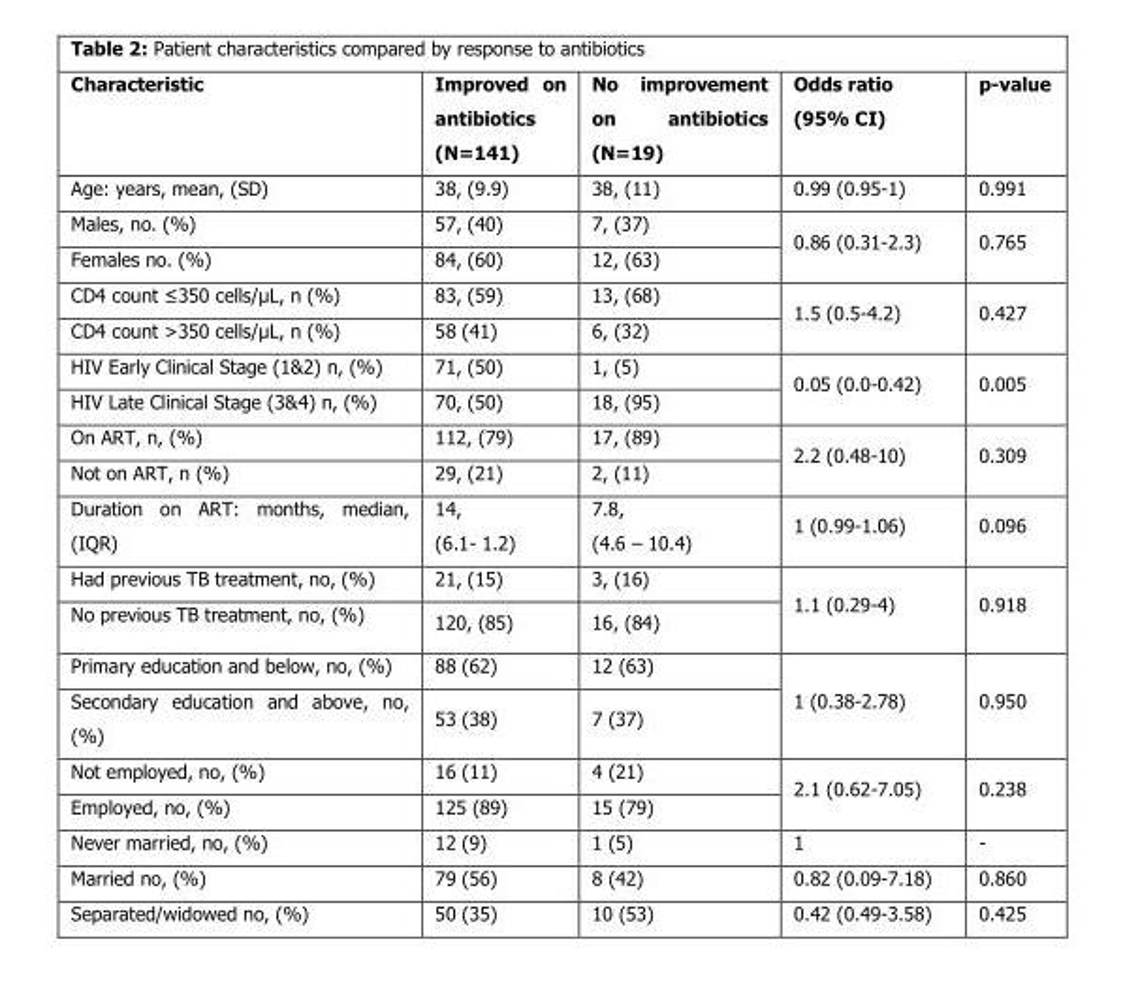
<table><thead><tr><td>Characteristic</td><td>Improved on antibiotics (N=141)</td><td>No improvement on antibiotics (N=19)</td><td>Odds ratio (95% CI)</td><td>p-value</td></tr></thead><tbody><tr><td>Age: years, mean, (SD)</td><td>38, (9.9)</td><td>38, (11)</td><td>0.99 (0.95-1)</td><td>0.991</td></tr><tr><td>Males, no. (%)</td><td>57, (40)</td><td>7, (37)</td><td rowspan="2">0.86 (0.31-2.3)</td><td rowspan="2">0.765</td></tr><tr><td>Females no. (%)</td><td>84, (60)</td><td>12, (63)</td></tr><tr><td>CD4 count ≤350 cells/µL, n (%)</td><td>83, (59)</td><td>13, (68)</td><td rowspan="2">1.5 (0.5-4.2)</td><td rowspan="2">0.427</td></tr><tr><td>CD4 count &gt;350 cells/µL, n (%)</td><td>58 (41)</td><td>6, (32)</td></tr><tr><td>HIV Early Clinical Stage (1&amp;2) n, (%)</td><td>71, (50)</td><td>1, (5)</td><td rowspan="2">0.05 (0.0-0.42)</td><td rowspan="2">0.005</td></tr><tr><td>HIV Late Clinical Stage (3&amp;4) n, (%)</td><td>70, (50)</td><td>18, (95)</td></tr><tr><td>On ART, n, (%)</td><td>112, (79)</td><td>17, (89)</td><td rowspan="2">2.2 (0.48-10)</td><td rowspan="2">0.309</td></tr><tr><td>Not on ART, n (%)</td><td>29, (21)</td><td>2, (11)</td></tr><tr><td>Duration on ART: months, median, (IQR)</td><td>14, (6.1- 1.2)</td><td>7.8, (4.6 – 10.4)</td><td>1 (0.99-1.06)</td><td>0.096</td></tr><tr><td>Had previous TB treatment, no, (%)</td><td>21, (15)</td><td>3, (16)</td><td rowspan="2">1.1 (0.29-4)</td><td rowspan="2">0.918</td></tr><tr><td>No previous TB treatment, no, (%)</td><td>120, (85)</td><td>16, (84)</td></tr><tr><td>Primary education and below, no, (%)</td><td>88 (62)</td><td>12 (63)</td><td rowspan="2">1 (0.38-2.78)</td><td rowspan="2">0.950</td></tr><tr><td>Secondary education and above, no, (%)</td><td>53 (38)</td><td>7 (37)</td></tr><tr><td>Not employed, no, (%)</td><td>16 (11)</td><td>4 (21)</td><td rowspan="2">2.1 (0.62-7.05)</td><td rowspan="2">0.238</td></tr><tr><td>Employed, no, (%)</td><td>125 (89)</td><td>15 (79)</td></tr><tr><td>Never married, no, (%)</td><td>12 (9)</td><td>1 (5)</td><td>1</td><td>-</td></tr><tr><td>Married no, (%)</td><td>79 (56)</td><td>8 (42)</td><td>0.82 (0.09-7.18)</td><td>0.860</td></tr><tr><td>Separated/widowed no, (%)</td><td>50 (35)</td><td>10 (53)</td><td>0.42 (0.49-3.58)</td><td>0.425</td></tr></tbody></table>